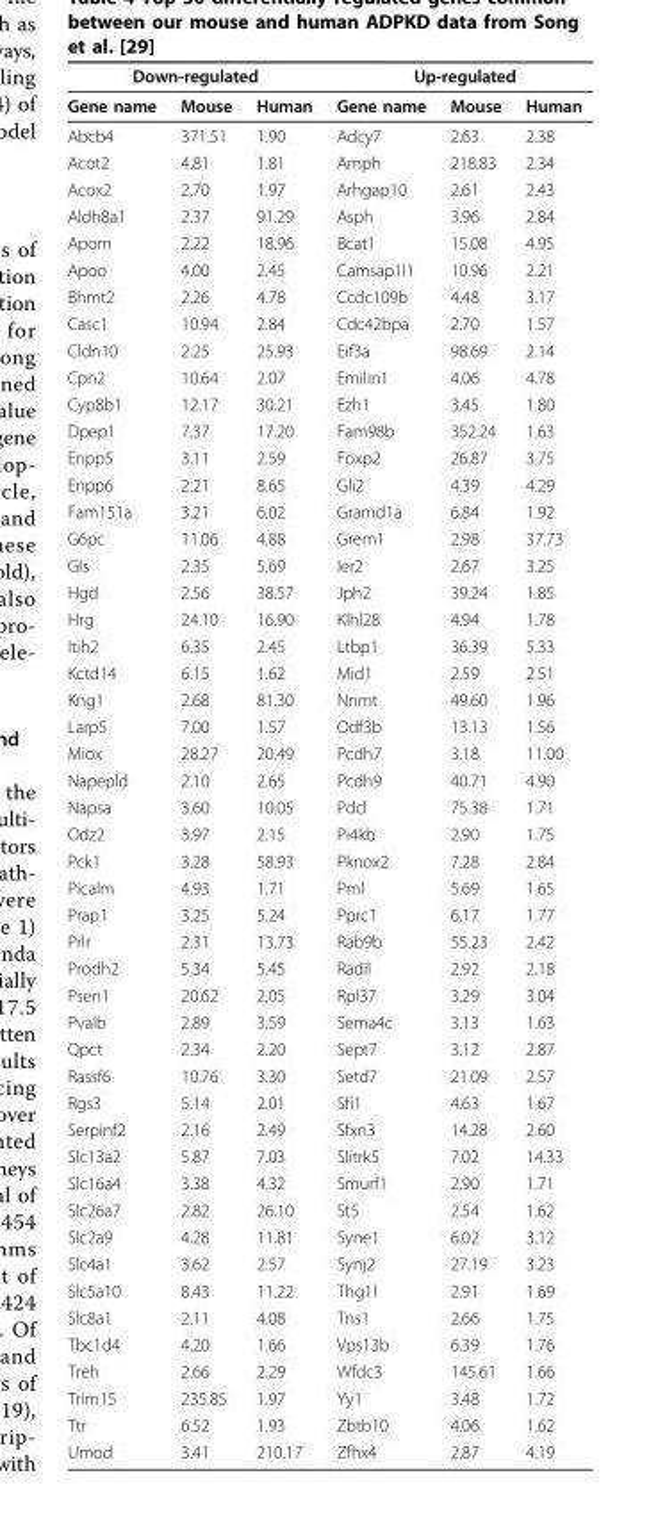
<table><thead><tr><td colspan="3">Down-regulated</td><td colspan="3">Up-regulated</td></tr><tr><td>Gene name</td><td>Mouse</td><td>Human</td><td>Gene name</td><td>Mouse</td><td>Human</td></tr></thead><tbody><tr><td>Abcb4</td><td>371.51</td><td>1.90</td><td>Adcy7</td><td>2.63</td><td>2.38</td></tr><tr><td>Acot2</td><td>4.81</td><td>1.81</td><td>Amph</td><td>218.83</td><td>2.34</td></tr><tr><td>Acox2</td><td>2.70</td><td>1.97</td><td>Arhgap10</td><td>2.61</td><td>2.43</td></tr><tr><td>Aldh8a1</td><td>2.37</td><td>91.29</td><td>Asph</td><td>3.96</td><td>2.84</td></tr><tr><td>Apom</td><td>2.22</td><td>18.96</td><td>Bcat1</td><td>15.08</td><td>4.95</td></tr><tr><td>Apoo</td><td>4.00</td><td>2.45</td><td>Camsap1l1</td><td>10.96</td><td>2.21</td></tr><tr><td>Bhmt2</td><td>2.26</td><td>4.78</td><td>Ccdc109b</td><td>4.48</td><td>3.17</td></tr><tr><td>Casc1</td><td>10.94</td><td>2.84</td><td>Cdc42bpa</td><td>2.70</td><td>1.57</td></tr><tr><td>Cldn10</td><td>2.25</td><td>25.93</td><td>Eif3a</td><td>98.69</td><td>2.14</td></tr><tr><td>Cpn2</td><td>10.64</td><td>2.07</td><td>Emilin1</td><td>4.06</td><td>4.78</td></tr><tr><td>Cyp8b1</td><td>12.17</td><td>30.21</td><td>Ezh1</td><td>3.45</td><td>1.80</td></tr><tr><td>Dpep1</td><td>7.37</td><td>17.20</td><td>Fam98b</td><td>352.24</td><td>1.63</td></tr><tr><td>Enpp5</td><td>3.11</td><td>2.59</td><td>Foxp2</td><td>26.87</td><td>3.75</td></tr><tr><td>Enpp6</td><td>2.21</td><td>8.65</td><td>Gli2</td><td>4.39</td><td>4.29</td></tr><tr><td>Fam151a</td><td>3.21</td><td>6.02</td><td>Gramd1a</td><td>6.84</td><td>1.92</td></tr><tr><td>G6pc</td><td>11.06</td><td>4.88</td><td>Grem1</td><td>2.98</td><td>37.73</td></tr><tr><td>Gls</td><td>2.35</td><td>5.69</td><td>Ier2</td><td>2.67</td><td>3.25</td></tr><tr><td>Hgd</td><td>2.56</td><td>38.57</td><td>Jph2</td><td>39.24</td><td>1.85</td></tr><tr><td>Hrg</td><td>24.10</td><td>16.90</td><td>Klhl28</td><td>4.94</td><td>1.78</td></tr><tr><td>Itih2</td><td>6.35</td><td>2.45</td><td>Ltbp1</td><td>36.39</td><td>5.33</td></tr><tr><td>Kctd14</td><td>6.15</td><td>1.62</td><td>Mid1</td><td>2.59</td><td>2.51</td></tr><tr><td>Kng1</td><td>2.68</td><td>81.30</td><td>Nnmt</td><td>49.60</td><td>1.96</td></tr><tr><td>Larp5</td><td>7.00</td><td>1.57</td><td>Odf3b</td><td>13.13</td><td>1.56</td></tr><tr><td>Miox</td><td>28.27</td><td>20.49</td><td>Pcdh7</td><td>3.18</td><td>11.00</td></tr><tr><td>Napepld</td><td>2.10</td><td>2.65</td><td>Pcdh9</td><td>40.71</td><td>4.90</td></tr><tr><td>Napsa</td><td>3.60</td><td>10.05</td><td>Pdcl</td><td>75.38</td><td>1.71</td></tr><tr><td>Odz2</td><td>3.97</td><td>2.15</td><td>Pi4kb</td><td>2.90</td><td>1.75</td></tr><tr><td>Pck1</td><td>3.28</td><td>58.93</td><td>Pknox2</td><td>7.28</td><td>2.84</td></tr><tr><td>Picalm</td><td>4.93</td><td>1.71</td><td>Pml</td><td>5.69</td><td>1.65</td></tr><tr><td>Prap1</td><td>3.25</td><td>5.24</td><td>Pprc1</td><td>6.17</td><td>1.77</td></tr><tr><td>Prlr</td><td>2.31</td><td>13.73</td><td>Rab9b</td><td>55.23</td><td>2.42</td></tr><tr><td>Prodh2</td><td>5.34</td><td>5.45</td><td>Radil</td><td>2.92</td><td>2.18</td></tr><tr><td>Psen1</td><td>20.62</td><td>2.05</td><td>Rpl37</td><td>3.29</td><td>3.04</td></tr><tr><td>Pvalb</td><td>2.89</td><td>3.59</td><td>Sema4c</td><td>3.13</td><td>1.63</td></tr><tr><td>Qpct</td><td>2.34</td><td>2.20</td><td>Sept7</td><td>3.12</td><td>2.87</td></tr><tr><td>Rassf6</td><td>10.76</td><td>3.30</td><td>Setd7</td><td>21.09</td><td>2.57</td></tr><tr><td>Rgs3</td><td>5.14</td><td>2.01</td><td>Sfi1</td><td>4.63</td><td>1.67</td></tr><tr><td>Serpinf2</td><td>2.16</td><td>2.49</td><td>Sfxn3</td><td>14.28</td><td>2.60</td></tr><tr><td>Slc13a2</td><td>5.87</td><td>7.03</td><td>Slitrk5</td><td>7.02</td><td>14.33</td></tr><tr><td>Slc16a4</td><td>3.38</td><td>4.32</td><td>Smurf1</td><td>2.90</td><td>1.71</td></tr><tr><td>Slc26a7</td><td>2.82</td><td>26.10</td><td>St5</td><td>2.54</td><td>1.62</td></tr><tr><td>Slc2a9</td><td>4.28</td><td>11.81</td><td>Syne1</td><td>6.02</td><td>3.12</td></tr><tr><td>Slc4a1</td><td>3.62</td><td>2.57</td><td>Synj2</td><td>27.19</td><td>3.23</td></tr><tr><td>Slc5a10</td><td>8.43</td><td>11.22</td><td>Thg1l</td><td>2.91</td><td>1.69</td></tr><tr><td>Slc8a1</td><td>2.11</td><td>4.08</td><td>Tns1</td><td>2.66</td><td>1.75</td></tr><tr><td>Tbc1d4</td><td>4.20</td><td>1.66</td><td>Vps13b</td><td>6.39</td><td>1.76</td></tr><tr><td>Treh</td><td>2.66</td><td>2.29</td><td>Wfdc3</td><td>145.61</td><td>1.66</td></tr><tr><td>Trim15</td><td>235.85</td><td>1.97</td><td>Yy1</td><td>3.48</td><td>1.72</td></tr><tr><td>Ttr</td><td>6.52</td><td>1.93</td><td>Zbtb10</td><td>4.06</td><td>1.62</td></tr><tr><td>Umod</td><td>3.41</td><td>210.17</td><td>Zfhx4</td><td>2.87</td><td>4.19</td></tr></tbody></table>